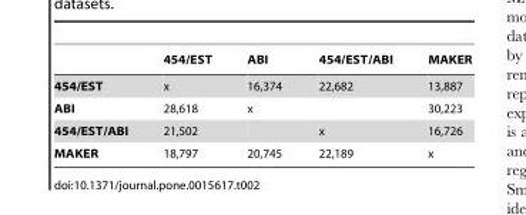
<table><thead><tr><td></td><td>454/EST</td><td>ABI</td><td>454/EST/ABI</td><td>MAKER</td></tr></thead><tbody><tr><td>454/EST</td><td>x</td><td>16,374</td><td>22,682</td><td>13,887</td></tr><tr><td>ABI</td><td>28,618</td><td>x</td><td></td><td>30,223</td></tr><tr><td>454/EST/ABI</td><td>21,502</td><td></td><td>x</td><td>16,726</td></tr><tr><td>MAKER</td><td>18,797</td><td>20,745</td><td>22,189</td><td>x</td></tr></tbody></table>